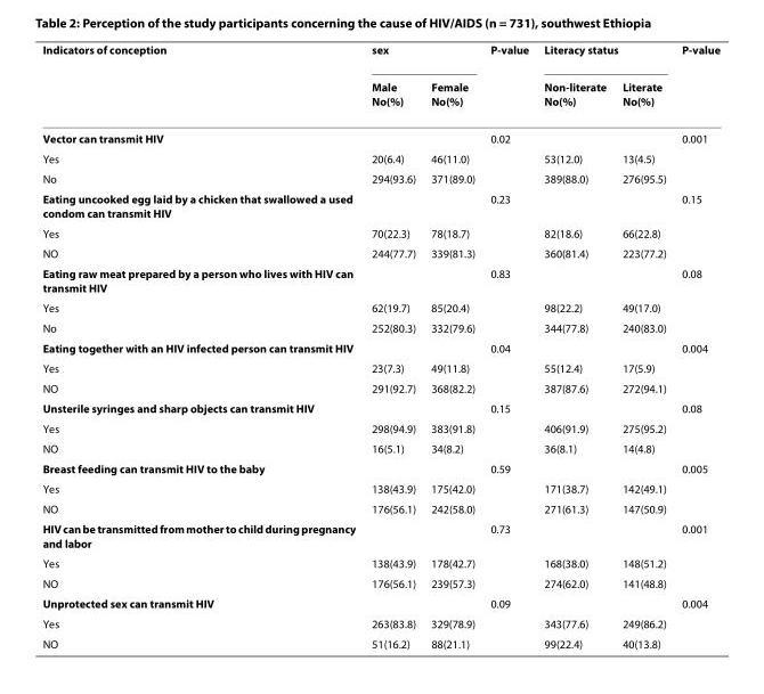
<table><thead><tr><td rowspan="2">Indicators of conception</td><td colspan="2">sex</td><td rowspan="2">P-value</td><td colspan="2">Literacy status</td><td rowspan="2">P-value</td></tr><tr><td>Male No(%)</td><td>Female No(%)</td><td>Non-literate No(%)</td><td>Literate No(%)</td></tr></thead><tbody><tr><td>Vector can transmit HIV</td><td></td><td></td><td>0.02</td><td></td><td></td><td>0.001</td></tr><tr><td>Yes</td><td>20(6.4)</td><td>46(11.0)</td><td></td><td>53(12.0)</td><td>13(4.5)</td><td></td></tr><tr><td>No</td><td>294(93.6)</td><td>371(89.0)</td><td></td><td>389(88.0)</td><td>276(95.5)</td><td></td></tr><tr><td>Eating uncooked egg laid by a chicken that swallowed a used condom can transmit HIV</td><td></td><td></td><td>0.23</td><td></td><td></td><td>0.15</td></tr><tr><td>Yes</td><td>70(22.3)</td><td>78(18.7)</td><td></td><td>82(18.6)</td><td>66(22.8)</td><td></td></tr><tr><td>NO</td><td>244(77.7)</td><td>339(81.3)</td><td></td><td>360(81.4)</td><td>223(77.2)</td><td></td></tr><tr><td>Eating raw meat prepared by a person who lives with HIV can transmit HIV</td><td></td><td></td><td>0.83</td><td></td><td></td><td>0.08</td></tr><tr><td>Yes</td><td>62(19.7)</td><td>85(20.4)</td><td></td><td>98(22.2)</td><td>49(17.0)</td><td></td></tr><tr><td>No</td><td>252(80.3)</td><td>332(79.6)</td><td></td><td>344(77.8)</td><td>240(83.0)</td><td></td></tr><tr><td>Eating together with an HIV infected person can transmit HIV</td><td></td><td></td><td>0.04</td><td></td><td></td><td>0.004</td></tr><tr><td>Yes</td><td>23(7.3)</td><td>49(11.8)</td><td></td><td>55(12.4)</td><td>17(5.9)</td><td></td></tr><tr><td>NO</td><td>291(92.7)</td><td>368(82.2)</td><td></td><td>387(87.6)</td><td>272(94.1)</td><td></td></tr><tr><td>Unsterile syringes and sharp objects can transmit HIV</td><td></td><td></td><td>0.15</td><td></td><td></td><td>0.08</td></tr><tr><td>Yes</td><td>298(94.9)</td><td>383(91.8)</td><td></td><td>406(91.9)</td><td>275(95.2)</td><td></td></tr><tr><td>NO</td><td>16(5.1)</td><td>34(8.2)</td><td></td><td>36(8.1)</td><td>14(4.8)</td><td></td></tr><tr><td>Breast feeding can transmit HIV to the baby</td><td></td><td></td><td>0.59</td><td></td><td></td><td>0.005</td></tr><tr><td>Yes</td><td>138(43.9)</td><td>175(42.0)</td><td></td><td>171(38.7)</td><td>142(49.1)</td><td></td></tr><tr><td>NO</td><td>176(56.1)</td><td>242(58.0)</td><td></td><td>271(61.3)</td><td>147(50.9)</td><td></td></tr><tr><td>HIV can be transmitted from mother to child during pregnancy and labor</td><td></td><td></td><td>0.73</td><td></td><td></td><td>0.001</td></tr><tr><td>Yes</td><td>138(43.9)</td><td>178(42.7)</td><td></td><td>168(38.0)</td><td>148(51.2)</td><td></td></tr><tr><td>NO</td><td>176(56.1)</td><td>239(57.3)</td><td></td><td>274(62.0)</td><td>141(48.8)</td><td></td></tr><tr><td>Unprotected sex can transmit HIV</td><td></td><td></td><td>0.09</td><td></td><td></td><td>0.004</td></tr><tr><td>Yes</td><td>263(83.8)</td><td>329(78.9)</td><td></td><td>343(77.6)</td><td>249(86.2)</td><td></td></tr><tr><td>NO</td><td>51(16.2)</td><td>88(21.1)</td><td></td><td>99(22.4)</td><td>40(13.8)</td><td></td></tr></tbody></table>